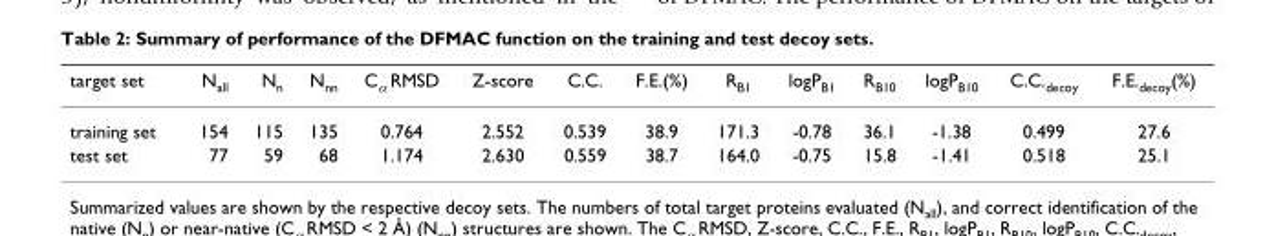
<table><thead><tr><td>target set</td><td>N<sub>all</sub></td><td>N<sub>n</sub></td><td>N<sub>nn</sub></td><td>C<sub>α</sub> RMSD</td><td>Z-score</td><td>C.C.</td><td>F.E.(%)</td><td>R<sub>B1</sub></td><td>logP<sub>B1</sub></td><td>R<sub>B10</sub></td><td>logP<sub>B10</sub></td><td>C.C.<sub>decoy</sub></td><td>F.E.<sub>decoy</sub>(%)</td></tr></thead><tbody><tr><td>training set</td><td>154</td><td>115</td><td>135</td><td>0.764</td><td>2.552</td><td>0.539</td><td>38.9</td><td>171.3</td><td>-0.78</td><td>36.1</td><td>-1.38</td><td>0.499</td><td>27.6</td></tr><tr><td>test set</td><td>77</td><td>59</td><td>68</td><td>1.174</td><td>2.630</td><td>0.559</td><td>38.7</td><td>164.0</td><td>-0.75</td><td>15.8</td><td>-1.41</td><td>0.518</td><td>25.1</td></tr></tbody></table>